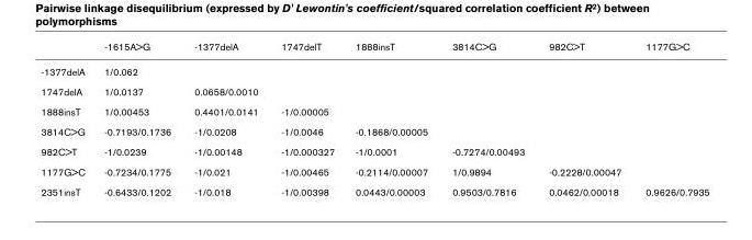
<table><thead><tr><td></td><td>-1615A&gt;G</td><td>-1377delA</td><td>1747delT</td><td>1888insT</td><td>3814C&gt;G</td><td>982C&gt;T</td><td>1177G&gt;C</td></tr></thead><tbody><tr><td>-1377delA</td><td>1/0.062</td><td></td><td></td><td></td><td></td><td></td><td></td></tr><tr><td>1747delA</td><td>1/0.0137</td><td>0.0658/0.0010</td><td></td><td></td><td></td><td></td><td></td></tr><tr><td>1888insT</td><td>1/0.00453</td><td>0.4401/0.0141</td><td>-1/0.00005</td><td></td><td></td><td></td><td></td></tr><tr><td>3814C&gt;G</td><td>-0.7193/0.1736</td><td>-1/0.0208</td><td>-1/0.0046</td><td>-0.1868/0.00005</td><td></td><td></td><td></td></tr><tr><td>982C&gt;T</td><td>-1/0.0239</td><td>-1/0.00148</td><td>-1/0.000327</td><td>-1/0.0001</td><td>-0.7274/0.00493</td><td></td><td></td></tr><tr><td>1177G&gt;C</td><td>-0.7234/0.1775</td><td>-1/0.021</td><td>-1/0.00465</td><td>-0.2114/0.00007</td><td>1/0.9894</td><td>-0.2228/0.00047</td><td></td></tr><tr><td>2351insT</td><td>-0.6433/0.1202</td><td>-1/0.018</td><td>-1/0.00398</td><td>0.0443/0.00003</td><td>0.9503/0.7816</td><td>0.0462/0.00018</td><td>0.9626/0.7935</td></tr></tbody></table>